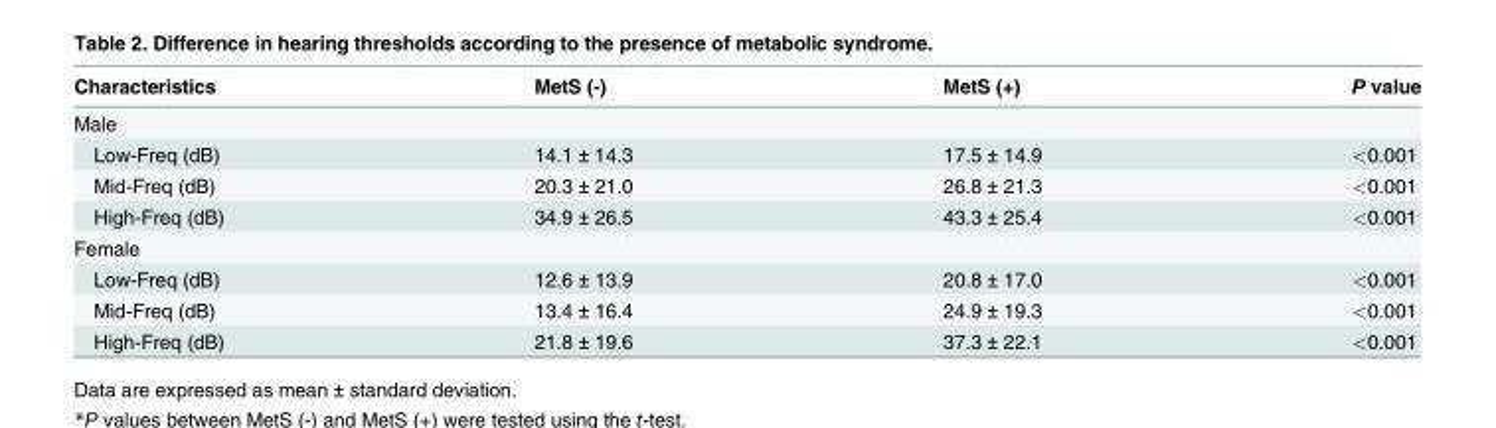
<table><thead><tr><td>Characteristics</td><td>MetS (-)</td><td>MetS (+)</td><td>P value</td></tr></thead><tbody><tr><td colspan="4">Male</td></tr><tr><td>Low-Freq (dB)</td><td>14.1 ± 14.3</td><td>17.5 ± 14.9</td><td>&lt;0.001</td></tr><tr><td>Mid-Freq (dB)</td><td>20.3 ± 21.0</td><td>26.8 ± 21.3</td><td>&lt;0.001</td></tr><tr><td>High-Freq (dB)</td><td>34.9 ± 26.5</td><td>43.3 ± 25.4</td><td>&lt;0.001</td></tr><tr><td colspan="4">Female</td></tr><tr><td>Low-Freq (dB)</td><td>12.6 ± 13.9</td><td>20.8 ± 17.0</td><td>&lt;0.001</td></tr><tr><td>Mid-Freq (dB)</td><td>13.4 ± 16.4</td><td>24.9 ± 19.3</td><td>&lt;0.001</td></tr><tr><td>High-Freq (dB)</td><td>21.8 ± 19.6</td><td>37.3 ± 22.1</td><td>&lt;0.001</td></tr></tbody></table>